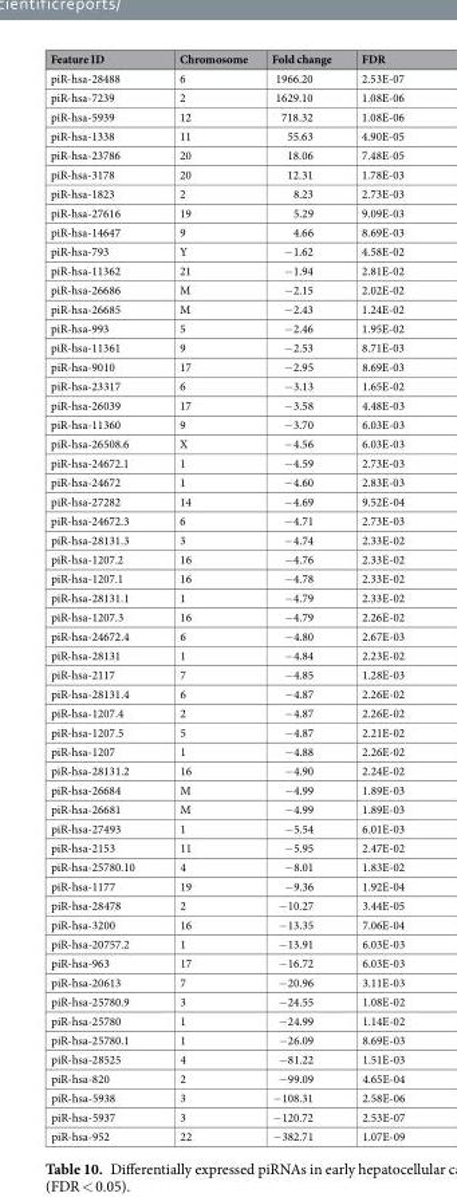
<table><thead><tr><td>Feature ID</td><td>Chromosome</td><td>Fold change</td><td>FDR</td></tr></thead><tbody><tr><td>piR-hsa-28488</td><td>6</td><td>1966.20</td><td>2.53E-07</td></tr><tr><td>piR-hsa-7239</td><td>2</td><td>1629.10</td><td>1.08E-06</td></tr><tr><td>piR-hsa-5939</td><td>12</td><td>718.32</td><td>1.08E-06</td></tr><tr><td>piR-hsa-1338</td><td>11</td><td>55.63</td><td>4.90E-05</td></tr><tr><td>piR-hsa-23786</td><td>20</td><td>18.06</td><td>7.48E-05</td></tr><tr><td>piR-hsa-3178</td><td>20</td><td>12.31</td><td>1.78E-03</td></tr><tr><td>piR-hsa-1823</td><td>2</td><td>8.23</td><td>2.73E-03</td></tr><tr><td>piR-hsa-27616</td><td>19</td><td>5.29</td><td>9.09E-03</td></tr><tr><td>piR-hsa-14647</td><td>9</td><td>4.66</td><td>8.69E-03</td></tr><tr><td>piR-hsa-793</td><td>Y</td><td>−1.62</td><td>4.58E-02</td></tr><tr><td>piR-hsa-11362</td><td>21</td><td>−1.94</td><td>2.81E-02</td></tr><tr><td>piR-hsa-26686</td><td>M</td><td>−2.15</td><td>2.02E-02</td></tr><tr><td>piR-hsa-26685</td><td>M</td><td>−2.43</td><td>1.24E-02</td></tr><tr><td>piR-hsa-993</td><td>5</td><td>−2.46</td><td>1.95E-02</td></tr><tr><td>piR-hsa-11361</td><td>9</td><td>−2.53</td><td>8.71E-03</td></tr><tr><td>piR-hsa-9010</td><td>17</td><td>−2.95</td><td>8.69E-03</td></tr><tr><td>piR-hsa-23317</td><td>6</td><td>−3.13</td><td>1.65E-02</td></tr><tr><td>piR-hsa-26039</td><td>17</td><td>−3.58</td><td>4.48E-03</td></tr><tr><td>piR-hsa-11360</td><td>9</td><td>−3.70</td><td>6.03E-03</td></tr><tr><td>piR-hsa-26508.6</td><td>X</td><td>−4.56</td><td>6.03E-03</td></tr><tr><td>piR-hsa-24672.1</td><td>1</td><td>−4.59</td><td>2.73E-03</td></tr><tr><td>piR-hsa-24672</td><td>1</td><td>−4.60</td><td>2.83E-03</td></tr><tr><td>piR-hsa-27282</td><td>14</td><td>−4.69</td><td>9.52E-04</td></tr><tr><td>piR-hsa-24672.3</td><td>6</td><td>−4.71</td><td>2.73E-03</td></tr><tr><td>piR-hsa-28131.3</td><td>3</td><td>−4.74</td><td>2.33E-02</td></tr><tr><td>piR-hsa-1207.2</td><td>16</td><td>−4.76</td><td>2.33E-02</td></tr><tr><td>piR-hsa-1207.1</td><td>16</td><td>−4.78</td><td>2.33E-02</td></tr><tr><td>piR-hsa-28131.1</td><td>1</td><td>−4.79</td><td>2.33E-02</td></tr><tr><td>piR-hsa-1207.3</td><td>16</td><td>−4.79</td><td>2.26E-02</td></tr><tr><td>piR-hsa-24672.4</td><td>6</td><td>−4.80</td><td>2.67E-03</td></tr><tr><td>piR-hsa-28131</td><td>1</td><td>−4.84</td><td>2.23E-02</td></tr><tr><td>piR-hsa-2117</td><td>7</td><td>−4.85</td><td>1.28E-03</td></tr><tr><td>piR-hsa-28131.4</td><td>6</td><td>−4.87</td><td>2.26E-02</td></tr><tr><td>piR-hsa-1207.4</td><td>2</td><td>−4.87</td><td>2.26E-02</td></tr><tr><td>piR-hsa-1207.5</td><td>5</td><td>−4.87</td><td>2.21E-02</td></tr><tr><td>piR-hsa-1207</td><td>1</td><td>−4.88</td><td>2.26E-02</td></tr><tr><td>piR-hsa-28131.2</td><td>16</td><td>−4.90</td><td>2.24E-02</td></tr><tr><td>piR-hsa-26684</td><td>M</td><td>−4.99</td><td>1.89E-03</td></tr><tr><td>piR-hsa-26681</td><td>M</td><td>−4.99</td><td>1.89E-03</td></tr><tr><td>piR-hsa-27493</td><td>1</td><td>−5.54</td><td>6.01E-03</td></tr><tr><td>piR-hsa-2153</td><td>11</td><td>−5.95</td><td>2.47E-02</td></tr><tr><td>piR-hsa-25780.10</td><td>4</td><td>−8.01</td><td>1.83E-02</td></tr><tr><td>piR-hsa-1177</td><td>19</td><td>−9.36</td><td>1.92E-04</td></tr><tr><td>piR-hsa-28478</td><td>2</td><td>−10.27</td><td>3.44E-05</td></tr><tr><td>piR-hsa-3200</td><td>16</td><td>−13.35</td><td>7.06E-04</td></tr><tr><td>piR-hsa-20757.2</td><td>1</td><td>−13.91</td><td>6.03E-03</td></tr><tr><td>piR-hsa-963</td><td>17</td><td>−16.72</td><td>6.03E-03</td></tr><tr><td>piR-hsa-20613</td><td>7</td><td>−20.96</td><td>3.11E-03</td></tr><tr><td>piR-hsa-25780.9</td><td>3</td><td>−24.55</td><td>1.08E-02</td></tr><tr><td>piR-hsa-25780</td><td>1</td><td>−24.99</td><td>1.14E-02</td></tr><tr><td>piR-hsa-25780.1</td><td>1</td><td>−26.09</td><td>8.69E-03</td></tr><tr><td>piR-hsa-28525</td><td>4</td><td>−81.22</td><td>1.51E-03</td></tr><tr><td>piR-hsa-820</td><td>2</td><td>−99.09</td><td>4.65E-04</td></tr><tr><td>piR-hsa-5938</td><td>3</td><td>−108.31</td><td>2.58E-06</td></tr><tr><td>piR-hsa-5937</td><td>3</td><td>−120.72</td><td>2.53E-07</td></tr><tr><td>piR-hsa-952</td><td>22</td><td>−382.71</td><td>1.07E-09</td></tr></tbody></table>